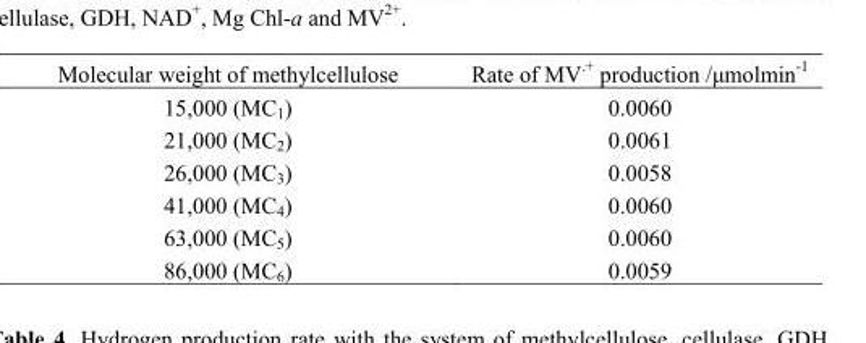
<table><thead><tr><td>Molecular weight of methylcellulose</td><td>Rate of MV<sup>.+</sup> production /μmolmin<sup>-1</sup></td></tr></thead><tbody><tr><td>15,000 (MC<sub>1</sub>)</td><td>0.0060</td></tr><tr><td>21,000 (MC<sub>2</sub>)</td><td>0.0061</td></tr><tr><td>26,000 (MC<sub>3</sub>)</td><td>0.0058</td></tr><tr><td>41,000 (MC<sub>4</sub>)</td><td>0.0060</td></tr><tr><td>63,000 (MC<sub>5</sub>)</td><td>0.0060</td></tr><tr><td>86,000 (MC<sub>6</sub>)</td><td>0.0059</td></tr></tbody></table>